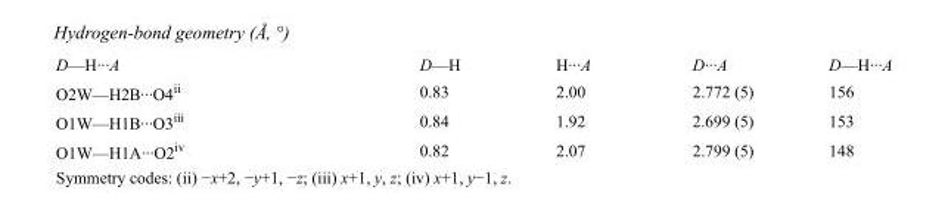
<table><tbody><tr><td>D—H···A</td><td>D—H</td><td>H···A</td><td>D···A</td><td>D—H···A</td></tr><tr><td>O2W—H2B···O4<sup>ii</sup></td><td>0.83</td><td>2.00</td><td>2.772 (5)</td><td>156</td></tr><tr><td>O1W—H1B···O3<sup>iii</sup></td><td>0.84</td><td>1.92</td><td>2.699 (5)</td><td>153</td></tr><tr><td>O1W—H1A···O2<sup>iv</sup></td><td>0.82</td><td>2.07</td><td>2.799 (5)</td><td>148</td></tr></tbody></table>